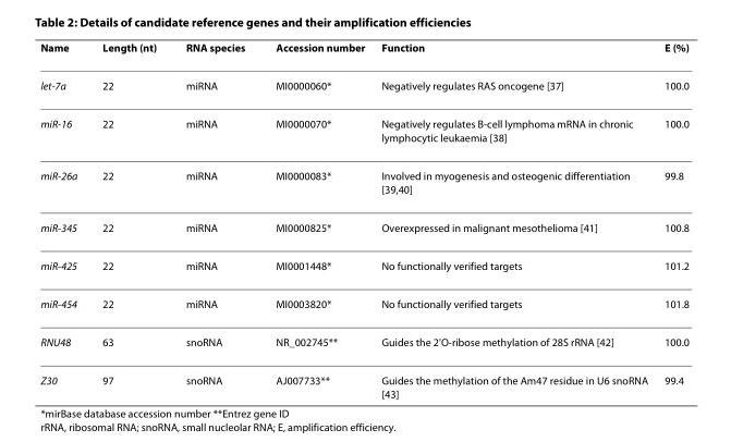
<table><thead><tr><td>Name</td><td>Length (nt)</td><td>RNA species</td><td>Accession number</td><td>Function</td><td>E (%)</td></tr></thead><tbody><tr><td>let-7a</td><td>22</td><td>miRNA</td><td>MI0000060*</td><td>Negatively regulates RAS oncogene [37]</td><td>100.0</td></tr><tr><td>miR-16</td><td>22</td><td>miRNA</td><td>MI0000070*</td><td>Negatively regulates B-cell lymphoma mRNA in chronic lymphocytic leukaemia [38]</td><td>100.0</td></tr><tr><td>miR-26a</td><td>22</td><td>miRNA</td><td>MI0000083*</td><td>Involved in myogenesis and osteogenic differentiation [39,40]</td><td>99.8</td></tr><tr><td>miR-345</td><td>22</td><td>miRNA</td><td>MI0000825*</td><td>Overexpressed in malignant mesothelioma [41]</td><td>100.8</td></tr><tr><td>miR-425</td><td>22</td><td>miRNA</td><td>MI0001448*</td><td>No functionally verified targets</td><td>101.2</td></tr><tr><td>miR-454</td><td>22</td><td>miRNA</td><td>MI0003820*</td><td>No functionally verified targets</td><td>101.8</td></tr><tr><td>RNU48</td><td>63</td><td>snoRNA</td><td>NR_002745**</td><td>Guides the 2&#x27;O-ribose methylation of 28S rRNA [42]</td><td>100.0</td></tr><tr><td>Z30</td><td>97</td><td>snoRNA</td><td>AJ007733**</td><td>Guides the methylation of the Am47 residue in U6 snoRNA [43]</td><td>99.4</td></tr></tbody></table>